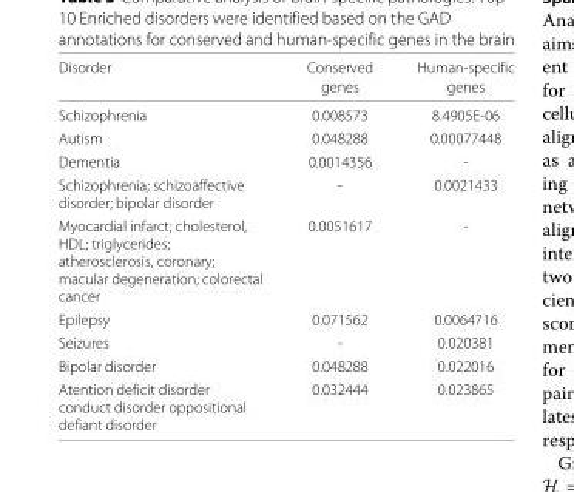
<table><thead><tr><td rowspan="2">Disorder</td><td rowspan="2">Conserved genes</td><td rowspan="2">Human-specific genes</td></tr><tr></tr></thead><tbody><tr><td>Schizophrenia</td><td>0.008573</td><td>8.4905E-06</td></tr><tr><td>Autism</td><td>0.048288</td><td>0.00077448</td></tr><tr><td>Dementia</td><td>0.0014356</td><td>-</td></tr><tr><td>Schizophrenia; schizoaffective disorder; bipolar disorder</td><td>-</td><td>0.0021433</td></tr><tr><td>Myocardial infarct; cholesterol, HDL; triglycerides; atherosclerosis, coronary; macular degeneration; colorectal cancer</td><td>0.0051617</td><td>-</td></tr><tr><td>Epilepsy</td><td>0.071562</td><td>0.0064716</td></tr><tr><td>Seizures</td><td>-</td><td>0.020381</td></tr><tr><td>Bipolar disorder</td><td>0.048288</td><td>0.022016</td></tr><tr><td>Atention deficit disorder conduct disorder oppositional defiant disorder</td><td>0.032444</td><td>0.023865</td></tr></tbody></table>